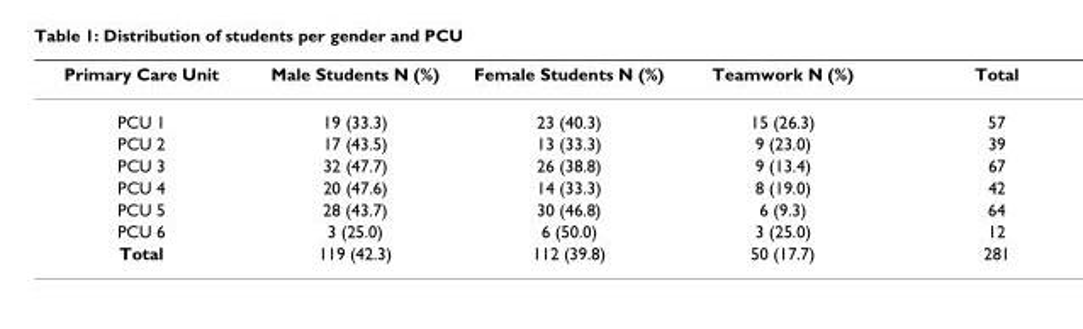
<table><thead><tr><td>Primary Care Unit</td><td>Male Students N (%)</td><td>Female Students N (%)</td><td>Teamwork N (%)</td><td>Total</td></tr></thead><tbody><tr><td>PCU 1</td><td>19 (33.3)</td><td>23 (40.3)</td><td>15 (26.3)</td><td>57</td></tr><tr><td>PCU 2</td><td>17 (43.5)</td><td>13 (33.3)</td><td>9 (23.0)</td><td>39</td></tr><tr><td>PCU 3</td><td>32 (47.7)</td><td>26 (38.8)</td><td>9 (13.4)</td><td>67</td></tr><tr><td>PCU 4</td><td>20 (47.6)</td><td>14 (33.3)</td><td>8 (19.0)</td><td>42</td></tr><tr><td>PCU 5</td><td>28 (43.7)</td><td>30 (46.8)</td><td>6 (9.3)</td><td>64</td></tr><tr><td>PCU 6</td><td>3 (25.0)</td><td>6 (50.0)</td><td>3 (25.0)</td><td>12</td></tr><tr><td>Total</td><td>119 (42.3)</td><td>112 (39.8)</td><td>50 (17.7)</td><td>281</td></tr></tbody></table>